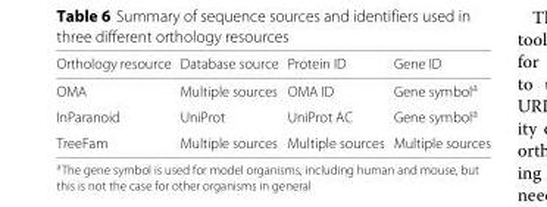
<table><thead><tr><td>Orthology resource</td><td>Database source</td><td>Protein ID</td><td>Gene ID</td></tr></thead><tbody><tr><td>OMA</td><td>Multiple sources</td><td>OMA ID</td><td>Gene symbol<sup>a</sup></td></tr><tr><td>InParanoid</td><td>UniProt</td><td>UniProt AC</td><td>Gene symbol<sup>a</sup></td></tr><tr><td>TreeFam</td><td>Multiple sources</td><td>Multiple sources</td><td>Multiple sources</td></tr></tbody></table>